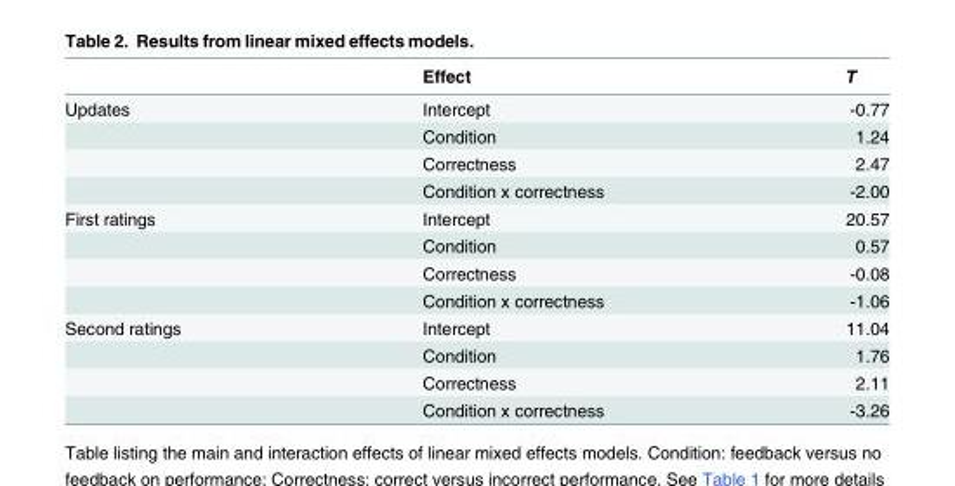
<table><thead><tr><td></td><td>Effect</td><td>T</td></tr></thead><tbody><tr><td rowspan="4">Updates</td><td>Intercept</td><td>-0.77</td></tr><tr><td>Condition</td><td>1.24</td></tr><tr><td>Correctness</td><td>2.47</td></tr><tr><td>Condition x correctness</td><td>-2.00</td></tr><tr><td rowspan="4">First ratings</td><td>Intercept</td><td>20.57</td></tr><tr><td>Condition</td><td>0.57</td></tr><tr><td>Correctness</td><td>-0.08</td></tr><tr><td>Condition x correctness</td><td>-1.06</td></tr><tr><td rowspan="4">Second ratings</td><td>Intercept</td><td>11.04</td></tr><tr><td>Condition</td><td>1.76</td></tr><tr><td>Correctness</td><td>2.11</td></tr><tr><td>Condition x correctness</td><td>-3.26</td></tr></tbody></table>